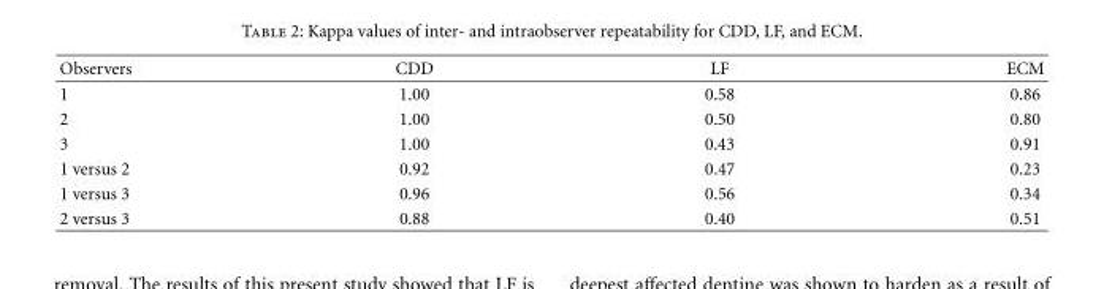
<table><thead><tr><td>Observers</td><td>CDD</td><td>LF</td><td>ECM</td></tr></thead><tbody><tr><td>1</td><td>1.00</td><td>0.58</td><td>0.86</td></tr><tr><td>2</td><td>1.00</td><td>0.50</td><td>0.80</td></tr><tr><td>3</td><td>1.00</td><td>0.43</td><td>0.91</td></tr><tr><td>1 versus 2</td><td>0.92</td><td>0.47</td><td>0.23</td></tr><tr><td>1 versus 3</td><td>0.96</td><td>0.56</td><td>0.34</td></tr><tr><td>2 versus 3</td><td>0.88</td><td>0.40</td><td>0.51</td></tr></tbody></table>